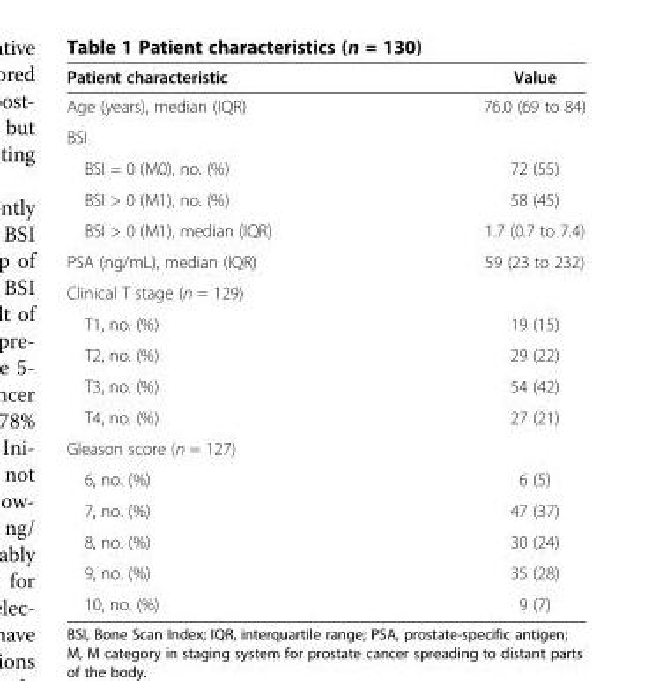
<table><thead><tr><td>Patient characteristic</td><td>Value</td></tr></thead><tbody><tr><td>Age (years), median (IQR)</td><td>76.0 (69 to 84)</td></tr><tr><td colspan="2">BSI</td></tr><tr><td>BSI = 0 (M0), no. (%)</td><td>72 (55)</td></tr><tr><td>BSI &gt; 0 (M1), no. (%)</td><td>58 (45)</td></tr><tr><td>BSI &gt; 0 (M1), median (IQR)</td><td>1.7 (0.7 to 7.4)</td></tr><tr><td>PSA (ng/mL), median (IQR)</td><td>59 (23 to 232)</td></tr><tr><td colspan="2">Clinical T stage (n = 129)</td></tr><tr><td>T1, no. (%)</td><td>19 (15)</td></tr><tr><td>T2, no. (%)</td><td>29 (22)</td></tr><tr><td>T3, no. (%)</td><td>54 (42)</td></tr><tr><td>T4, no. (%)</td><td>27 (21)</td></tr><tr><td colspan="2">Gleason score (n = 127)</td></tr><tr><td>6, no. (%)</td><td>6 (5)</td></tr><tr><td>7, no. (%)</td><td>47 (37)</td></tr><tr><td>8, no. (%)</td><td>30 (24)</td></tr><tr><td>9, no. (%)</td><td>35 (28)</td></tr><tr><td>10, no. (%)</td><td>9 (7)</td></tr></tbody></table>